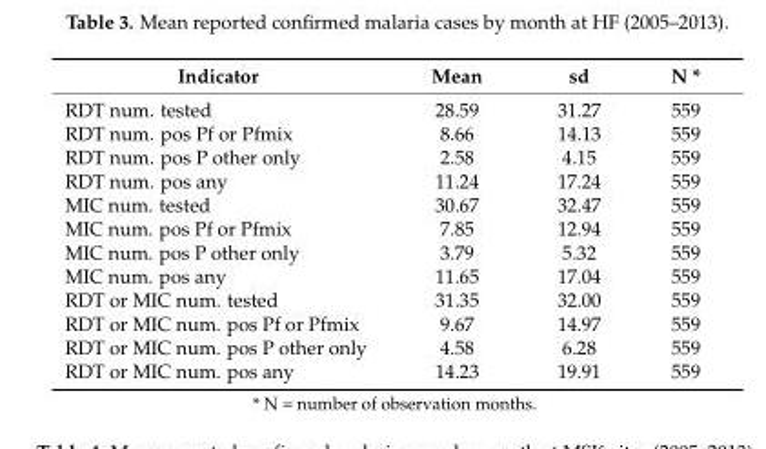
<table><thead><tr><td>Indicator</td><td>Mean</td><td>sd</td><td>N *</td></tr></thead><tbody><tr><td>RDT num. tested</td><td>28.59</td><td>31.27</td><td>559</td></tr><tr><td>RDT num. pos Pf or Pfmix</td><td>8.66</td><td>14.13</td><td>559</td></tr><tr><td>RDT num. pos P other only</td><td>2.58</td><td>4.15</td><td>559</td></tr><tr><td>RDT num. pos any</td><td>11.24</td><td>17.24</td><td>559</td></tr><tr><td>MIC num. tested</td><td>30.67</td><td>32.47</td><td>559</td></tr><tr><td>MIC num. pos Pf or Pfmix</td><td>7.85</td><td>12.94</td><td>559</td></tr><tr><td>MIC num. pos P other only</td><td>3.79</td><td>5.32</td><td>559</td></tr><tr><td>MIC num. pos any</td><td>11.65</td><td>17.04</td><td>559</td></tr><tr><td>RDT or MIC num. tested</td><td>31.35</td><td>32.00</td><td>559</td></tr><tr><td>RDT or MIC num. pos Pf or Pfmix</td><td>9.67</td><td>14.97</td><td>559</td></tr><tr><td>RDT or MIC num. pos P other only</td><td>4.58</td><td>6.28</td><td>559</td></tr><tr><td>RDT or MIC num. pos any</td><td>14.23</td><td>19.91</td><td>559</td></tr></tbody></table>